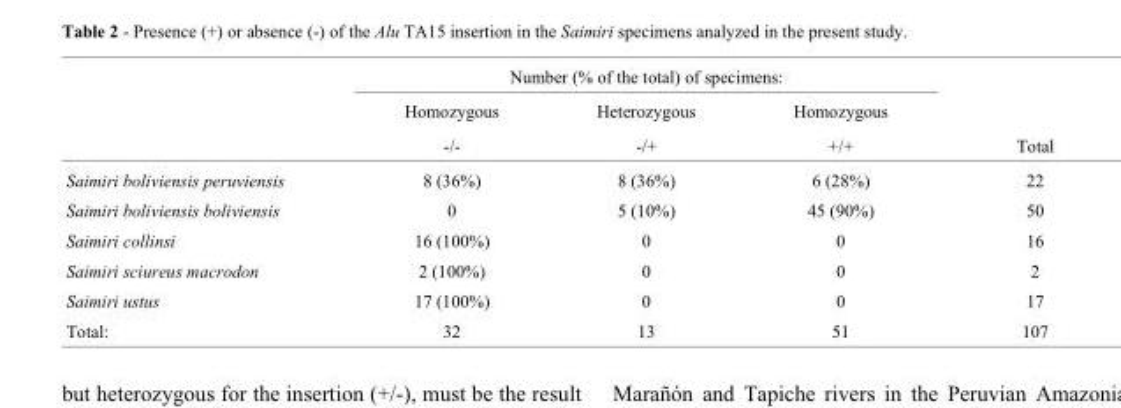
<table><thead><tr><td rowspan="3"></td><td colspan="3">Number (% of the total) of specimens:</td><td rowspan="3">Total</td></tr><tr><td rowspan="2">Homozygous -/-</td><td rowspan="2">Heterozygous -/+</td><td rowspan="2">Homozygous +/+</td></tr><tr></tr></thead><tbody><tr><td>Saimiri boliviensis peruviensis</td><td>8 (36%)</td><td>8 (36%)</td><td>6 (28%)</td><td>22</td></tr><tr><td>Saimiri boliviensis boliviensis</td><td>0</td><td>5 (10%)</td><td>45 (90%)</td><td>50</td></tr><tr><td>Saimiri collinsi</td><td>16 (100%)</td><td>0</td><td>0</td><td>16</td></tr><tr><td>Saimiri sciureus macrodon</td><td>2 (100%)</td><td>0</td><td>0</td><td>2</td></tr><tr><td>Saimiri ustus</td><td>17 (100%)</td><td>0</td><td>0</td><td>17</td></tr><tr><td>Total:</td><td>32</td><td>13</td><td>51</td><td>107</td></tr></tbody></table>